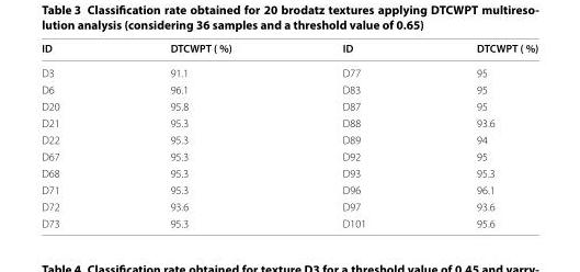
<table><thead><tr><td>ID</td><td>DTCWPT ( %)</td><td>ID</td><td>DTCWPT ( %)</td></tr></thead><tbody><tr><td>D3</td><td>91.1</td><td>D77</td><td>95</td></tr><tr><td>D6</td><td>96.1</td><td>D83</td><td>95</td></tr><tr><td>D20</td><td>95.8</td><td>D87</td><td>95</td></tr><tr><td>D21</td><td>95.3</td><td>D88</td><td>93.6</td></tr><tr><td>D22</td><td>95.3</td><td>D89</td><td>94</td></tr><tr><td>D67</td><td>95.3</td><td>D92</td><td>95</td></tr><tr><td>D68</td><td>95.3</td><td>D93</td><td>95.3</td></tr><tr><td>D71</td><td>95.3</td><td>D96</td><td>96.1</td></tr><tr><td>D72</td><td>93.6</td><td>D97</td><td>93.6</td></tr><tr><td>D73</td><td>95.3</td><td>D101</td><td>95.6</td></tr></tbody></table>